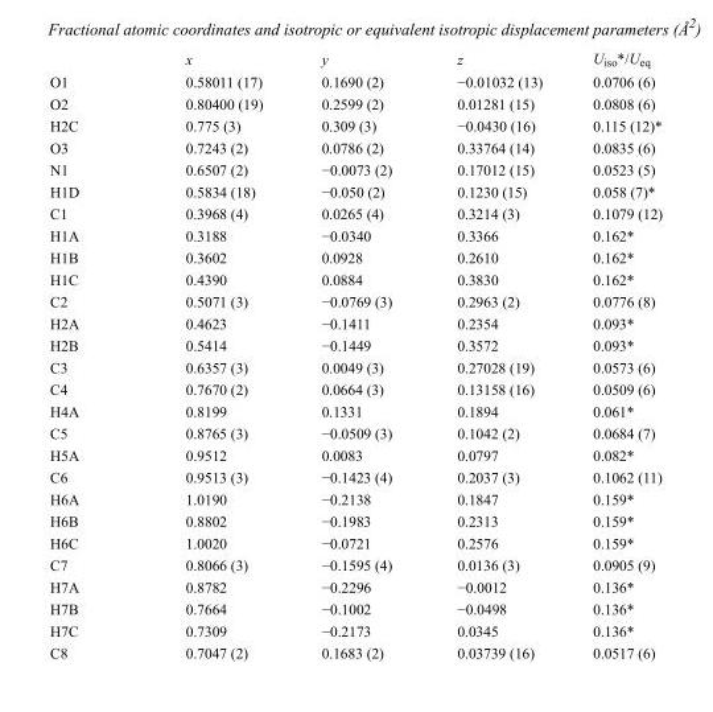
<table><thead><tr><td></td><td>x</td><td>y</td><td>z</td><td>U<sub>iso</sub>*/U<sub>eq</sub></td></tr></thead><tbody><tr><td>O1</td><td>0.58011 (17)</td><td>0.1690 (2)</td><td>−0.01032 (13)</td><td>0.0706 (6)</td></tr><tr><td>O2</td><td>0.80400 (19)</td><td>0.2599 (2)</td><td>0.01281 (15)</td><td>0.0808 (6)</td></tr><tr><td>H2C</td><td>0.775 (3)</td><td>0.309 (3)</td><td>−0.0430 (16)</td><td>0.115 (12)*</td></tr><tr><td>O3</td><td>0.7243 (2)</td><td>0.0786 (2)</td><td>0.33764 (14)</td><td>0.0835 (6)</td></tr><tr><td>N1</td><td>0.6507 (2)</td><td>−0.0073 (2)</td><td>0.17012 (15)</td><td>0.0523 (5)</td></tr><tr><td>H1D</td><td>0.5834 (18)</td><td>−0.050 (2)</td><td>0.1230 (15)</td><td>0.058 (7)*</td></tr><tr><td>C1</td><td>0.3968 (4)</td><td>0.0265 (4)</td><td>0.3214 (3)</td><td>0.1079 (12)</td></tr><tr><td>H1A</td><td>0.3188</td><td>−0.0340</td><td>0.3366</td><td>0.162*</td></tr><tr><td>H1B</td><td>0.3602</td><td>0.0928</td><td>0.2610</td><td>0.162*</td></tr><tr><td>H1C</td><td>0.4390</td><td>0.0884</td><td>0.3830</td><td>0.162*</td></tr><tr><td>C2</td><td>0.5071 (3)</td><td>−0.0769 (3)</td><td>0.2963 (2)</td><td>0.0776 (8)</td></tr><tr><td>H2A</td><td>0.4623</td><td>−0.1411</td><td>0.2354</td><td>0.093*</td></tr><tr><td>H2B</td><td>0.5414</td><td>−0.1449</td><td>0.3572</td><td>0.093*</td></tr><tr><td>C3</td><td>0.6357 (3)</td><td>0.0049 (3)</td><td>0.27028 (19)</td><td>0.0573 (6)</td></tr><tr><td>C4</td><td>0.7670 (2)</td><td>0.0664 (3)</td><td>0.13158 (16)</td><td>0.0509 (6)</td></tr><tr><td>H4A</td><td>0.8199</td><td>0.1331</td><td>0.1894</td><td>0.061*</td></tr><tr><td>C5</td><td>0.8765 (3)</td><td>−0.0509 (3)</td><td>0.1042 (2)</td><td>0.0684 (7)</td></tr><tr><td>H5A</td><td>0.9512</td><td>0.0083</td><td>0.0797</td><td>0.082*</td></tr><tr><td>C6</td><td>0.9513 (3)</td><td>−0.1423 (4)</td><td>0.2037 (3)</td><td>0.1062 (11)</td></tr><tr><td>H6A</td><td>1.0190</td><td>−0.2138</td><td>0.1847</td><td>0.159*</td></tr><tr><td>H6B</td><td>0.8802</td><td>−0.1983</td><td>0.2313</td><td>0.159*</td></tr><tr><td>H6C</td><td>1.0020</td><td>−0.0721</td><td>0.2576</td><td>0.159*</td></tr><tr><td>C7</td><td>0.8066 (3)</td><td>−0.1595 (4)</td><td>0.0136 (3)</td><td>0.0905 (9)</td></tr><tr><td>H7A</td><td>0.8782</td><td>−0.2296</td><td>−0.0012</td><td>0.136*</td></tr><tr><td>H7B</td><td>0.7664</td><td>−0.1002</td><td>−0.0498</td><td>0.136*</td></tr><tr><td>H7C</td><td>0.7309</td><td>−0.2173</td><td>0.0345</td><td>0.136*</td></tr><tr><td>C8</td><td>0.7047 (2)</td><td>0.1683 (2)</td><td>0.03739 (16)</td><td>0.0517 (6)</td></tr></tbody></table>